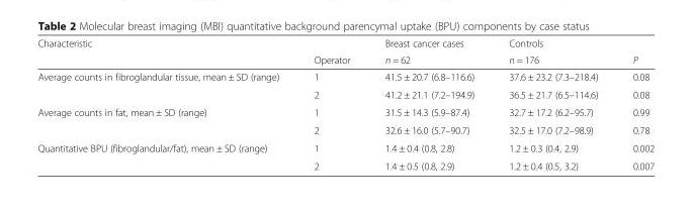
<table><thead><tr><td rowspan="2">Characteristic</td><td rowspan="2">Operator</td><td rowspan="2">Breast cancer cases n = 62</td><td rowspan="2">Controls n = 176</td><td rowspan="2">P</td></tr><tr></tr></thead><tbody><tr><td rowspan="2">Average counts in fibroglandular tissue, mean ± SD (range)</td><td>1</td><td>41.5 ± 20.7 (6.8–116.6)</td><td>37.6 ± 23.2 (7.3–218.4)</td><td>0.08</td></tr><tr><td>2</td><td>41.2 ± 21.1 (7.2–194.9)</td><td>36.5 ± 21.7 (6.5–114.6)</td><td>0.08</td></tr><tr><td rowspan="2">Average counts in fat, mean ± SD (range)</td><td>1</td><td>31.5 ± 14.3 (5.9–87.4)</td><td>32.7 ± 17.2 (6.2–95.7)</td><td>0.99</td></tr><tr><td>2</td><td>32.6 ± 16.0 (5.7–90.7)</td><td>32.5 ± 17.0 (7.2–98.9)</td><td>0.78</td></tr><tr><td rowspan="2">Quantitative BPU (fibroglandular/fat), mean ± SD (range)</td><td>1</td><td>1.4 ± 0.4 (0.8, 2.8)</td><td>1.2 ± 0.3 (0.4, 2.9)</td><td>0.002</td></tr><tr><td>2</td><td>1.4 ± 0.5 (0.8, 2.9)</td><td>1.2 ± 0.4 (0.5, 3.2)</td><td>0.007</td></tr></tbody></table>